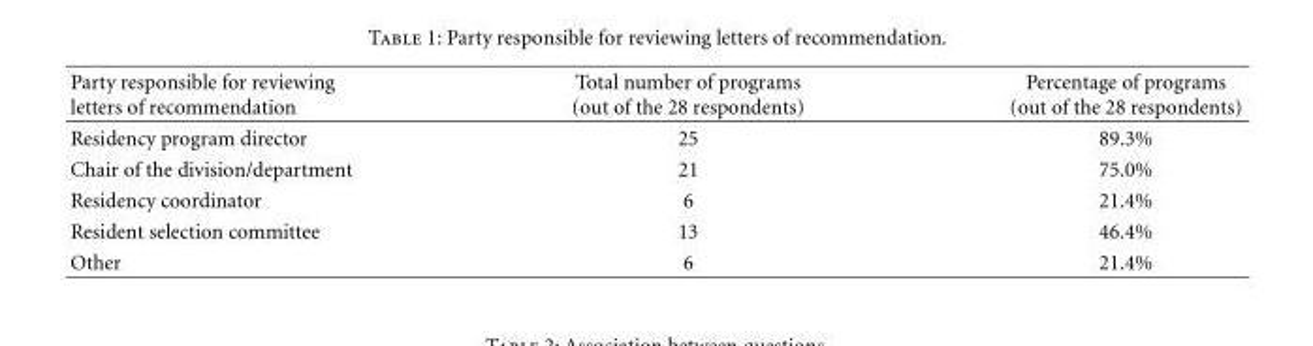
<table><thead><tr><td>Party responsible for reviewing letters of recommendation</td><td>Total number of programs (out of the 28 respondents)</td><td>Percentage of programs (out of the 28 respondents)</td></tr></thead><tbody><tr><td>Residency program director</td><td>25</td><td>89.3%</td></tr><tr><td>Chair of the division/department</td><td>21</td><td>75.0%</td></tr><tr><td>Residency coordinator</td><td>6</td><td>21.4%</td></tr><tr><td>Resident selection committee</td><td>13</td><td>46.4%</td></tr><tr><td>Other</td><td>6</td><td>21.4%</td></tr></tbody></table>